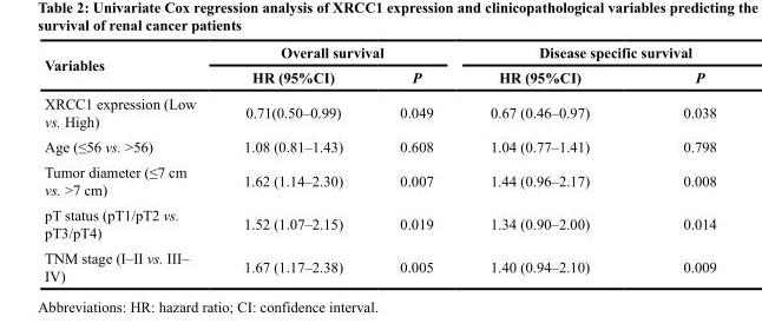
<table><thead><tr><td rowspan="2">Variables</td><td colspan="2">Overall survival</td><td colspan="2">Disease specific survival</td></tr><tr><td>HR (95%CI)</td><td>P</td><td>HR (95%CI)</td><td>P</td></tr></thead><tbody><tr><td>XRCC1 expression (Low vs. High)</td><td>0.71(0.50–0.99)</td><td>0.049</td><td>0.67 (0.46–0.97)</td><td>0.038</td></tr><tr><td>Age (≤56 vs. &gt;56)</td><td>1.08 (0.81–1.43)</td><td>0.608</td><td>1.04 (0.77–1.41)</td><td>0.798</td></tr><tr><td>Tumor diameter (≤7 cm vs. &gt;7 cm)</td><td>1.62 (1.14–2.30)</td><td>0.007</td><td>1.44 (0.96–2.17)</td><td>0.008</td></tr><tr><td>pT status (pT1/pT2 vs. pT3/pT4)</td><td>1.52 (1.07–2.15)</td><td>0.019</td><td>1.34 (0.90–2.00)</td><td>0.014</td></tr><tr><td>TNM stage (I–II vs. III– IV)</td><td>1.67 (1.17–2.38)</td><td>0.005</td><td>1.40 (0.94–2.10)</td><td>0.009</td></tr></tbody></table>